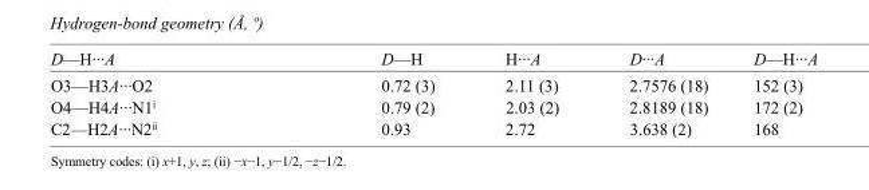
<table><tbody><tr><td>D—H···A</td><td>D—H</td><td>H···A</td><td>D···A</td><td>D—H···A</td></tr><tr><td>O3—H3A···O2</td><td>0.72 (3)</td><td>2.11 (3)</td><td>2.7576 (18)</td><td>152 (3)</td></tr><tr><td>O4—H4A···N1<sup>i</sup></td><td>0.79 (2)</td><td>2.03 (2)</td><td>2.8189 (18)</td><td>172 (2)</td></tr><tr><td>C2—H2A···N2<sup>ii</sup></td><td>0.93</td><td>2.72</td><td>3.638 (2)</td><td>168</td></tr></tbody></table>